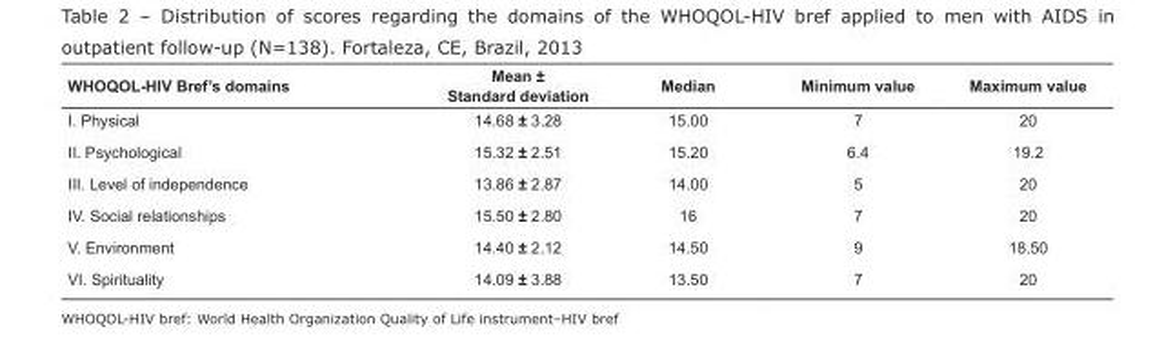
<table><thead><tr><td>WHOQOL-HIV Bref’s domains</td><td>Mean ± Standard deviation</td><td>Median</td><td>Minimum value</td><td>Maximum value</td></tr></thead><tbody><tr><td>I. Physical</td><td>14.68 ± 3.28</td><td>15.00</td><td>7</td><td>20</td></tr><tr><td>II. Psychological</td><td>15.32 ± 2.51</td><td>15.20</td><td>6.4</td><td>19.2</td></tr><tr><td>III. Level of independence</td><td>13.86 ± 2.87</td><td>14.00</td><td>5</td><td>20</td></tr><tr><td>IV. Social relationships</td><td>15.50 ± 2.80</td><td>16</td><td>7</td><td>20</td></tr><tr><td>V. Environment</td><td>14.40 ± 2.12</td><td>14.50</td><td>9</td><td>18.50</td></tr><tr><td>VI. Spirituality</td><td>14.09 ± 3.88</td><td>13.50</td><td>7</td><td>20</td></tr></tbody></table>